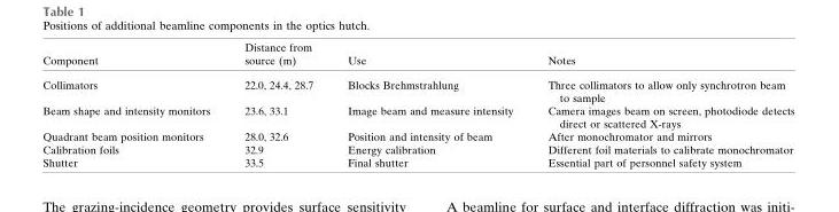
<table><thead><tr><td>Component</td><td>Distance from source (m)</td><td>Use</td><td>Notes</td></tr></thead><tbody><tr><td>Collimators</td><td>22.0, 24.4, 28.7</td><td>Blocks Brehmstrahlung</td><td>Three collimators to allow only synchrotron beam to sample</td></tr><tr><td>Beam shape and intensity monitors</td><td>23.6, 33.1</td><td>Image beam and measure intensity</td><td>Camera images beam on screen, photodiode detects direct or scattered X-rays</td></tr><tr><td>Quadrant beam position monitors</td><td>28.0, 32.6</td><td>Position and intensity of beam</td><td>After monochromator and mirrors</td></tr><tr><td>Calibration foils</td><td>32.9</td><td>Energy calibration</td><td>Different foil materials to calibrate monochromator</td></tr><tr><td>Shutter</td><td>33.5</td><td>Final shutter</td><td>Essential part of personnel safety system</td></tr></tbody></table>